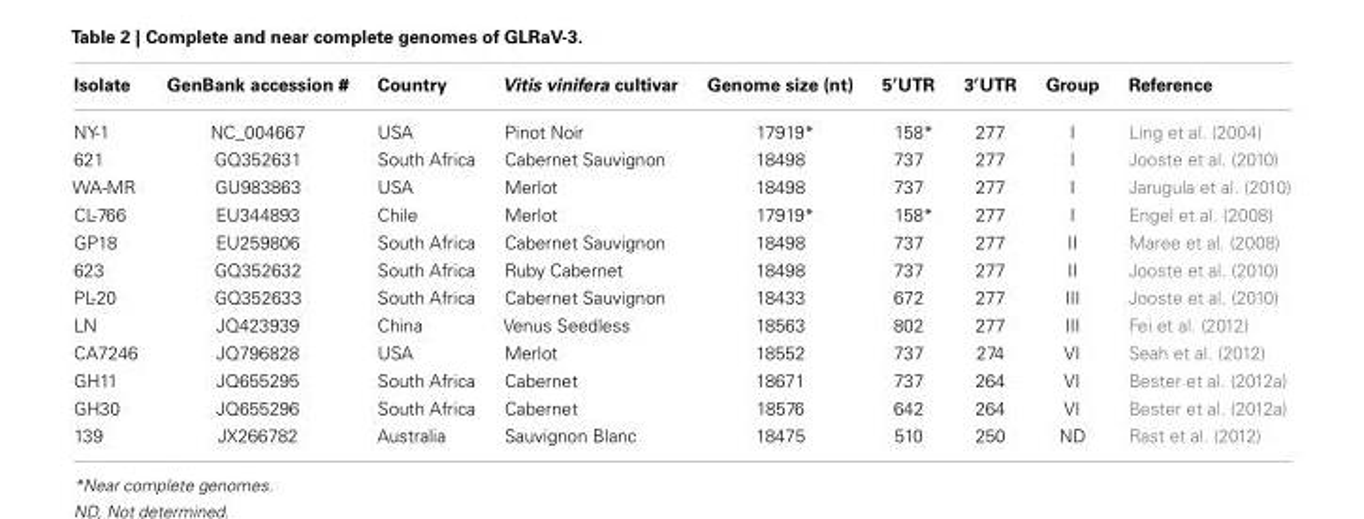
<table><thead><tr><td>Isolate</td><td>GenBank accession #</td><td>Country</td><td>Vitis vinifera cultivar</td><td>Genome size (nt)</td><td>5′UTR</td><td>3′UTR</td><td>Group</td><td>Reference</td></tr></thead><tbody><tr><td>NY-1</td><td>NC_004667</td><td>USA</td><td>Pinot Noir</td><td>17919*</td><td>158*</td><td>277</td><td>I</td><td>Ling et al. (2004)</td></tr><tr><td>621</td><td>GQ352631</td><td>South Africa</td><td>Cabernet Sauvignon</td><td>18498</td><td>737</td><td>277</td><td>I</td><td>Jooste et al. (2010)</td></tr><tr><td>WA-MR</td><td>GU983863</td><td>USA</td><td>Merlot</td><td>18498</td><td>737</td><td>277</td><td>I</td><td>Jarugula et al. (2010)</td></tr><tr><td>CL-766</td><td>EU344893</td><td>Chile</td><td>Merlot</td><td>17919*</td><td>158*</td><td>277</td><td>I</td><td>Engel et al. (2008)</td></tr><tr><td>GP18</td><td>EU259806</td><td>South Africa</td><td>Cabernet Sauvignon</td><td>18498</td><td>737</td><td>277</td><td>II</td><td>Maree et al. (2008)</td></tr><tr><td>623</td><td>GQ352632</td><td>South Africa</td><td>Ruby Cabernet</td><td>18498</td><td>737</td><td>277</td><td>II</td><td>Jooste et al. (2010)</td></tr><tr><td>PL-20</td><td>GQ352633</td><td>South Africa</td><td>Cabernet Sauvignon</td><td>18433</td><td>672</td><td>277</td><td>III</td><td>Jooste et al. (2010)</td></tr><tr><td>LN</td><td>JQ423939</td><td>China</td><td>Venus Seedless</td><td>18563</td><td>802</td><td>277</td><td>III</td><td>Fei et al. (2012)</td></tr><tr><td>CA7246</td><td>JQ796828</td><td>USA</td><td>Merlot</td><td>18552</td><td>737</td><td>274</td><td>VI</td><td>Seah et al. (2012)</td></tr><tr><td>GH11</td><td>JQ655295</td><td>South Africa</td><td>Cabernet</td><td>18671</td><td>737</td><td>264</td><td>VI</td><td>Bester et al. (2012a)</td></tr><tr><td>GH30</td><td>JQ655296</td><td>South Africa</td><td>Cabernet</td><td>18576</td><td>642</td><td>264</td><td>VI</td><td>Bester et al. (2012a)</td></tr><tr><td>139</td><td>JX266782</td><td>Australia</td><td>Sauvignon Blanc</td><td>18475</td><td>510</td><td>250</td><td>ND</td><td>Rast et al. (2012)</td></tr></tbody></table>